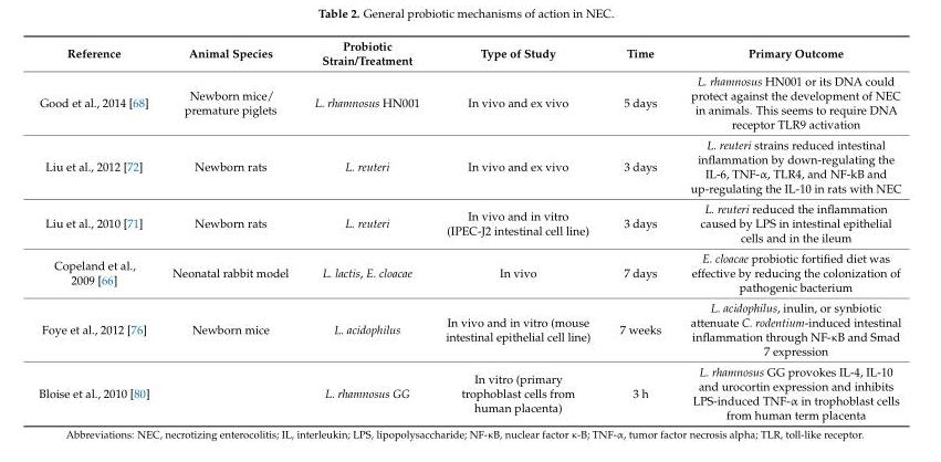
<table><thead><tr><td>Reference</td><td>Animal Species</td><td>Probiotic Strain/Treatment</td><td>Type of Study</td><td>Time</td><td>Primary Outcome</td></tr></thead><tbody><tr><td>Good et al., 2014 [68]</td><td>Newborn mice/ premature piglets</td><td>L. rhamnosus HN001</td><td>In vivo and ex vivo</td><td>5 days</td><td>L. rhamnosus HN001 or its DNA could protect against the development of NEC in animals. This seems to require DNA receptor TLR9 activation</td></tr><tr><td>Liu et al., 2012 [72]</td><td>Newborn rats</td><td>L. reuteri</td><td>In vivo and ex vivo</td><td>3 days</td><td>L. reuteri strains reduced intestinal inflammation by down-regulating the IL-6, TNF-α, TLR4, and NF-kB and up-regulating the IL-10 in rats with NEC</td></tr><tr><td>Liu et al., 2010 [71]</td><td>Newborn rats</td><td>L. reuteri</td><td>In vivo and in vitro (IPEC-J2 intestinal cell line)</td><td>3 days</td><td>L. reuteri reduced the inflammation caused by LPS in intestinal epithelial cells and in the ileum</td></tr><tr><td>Copeland et al., 2009 [66]</td><td>Neonatal rabbit model</td><td>L. lactis, E. cloacae</td><td>In vivo</td><td>7 days</td><td>E. cloacae probiotic fortified diet was effective by reducing the colonization of pathogenic bacterium</td></tr><tr><td>Foye et al., 2012 [76]</td><td>Newborn mice</td><td>L. acidophilus</td><td>In vivo and in vitro (mouse intestinal epithelial cell line)</td><td>7 weeks</td><td>L. acidophilus, inulin, or synbiotic attenuate C. rodentium-induced intestinal inflammation through NF-κB and Smad 7 expression</td></tr><tr><td>Bloise et al., 2010 [80]</td><td></td><td>L. rhamnosus GG</td><td>In vitro (primary trophoblast cells from human placenta)</td><td>3 h</td><td>L. rhamnosus GG provokes IL-4, IL-10 and urocortin expression and inhibits LPS-induced TNF-α in trophoblast cells from human term placenta</td></tr></tbody></table>